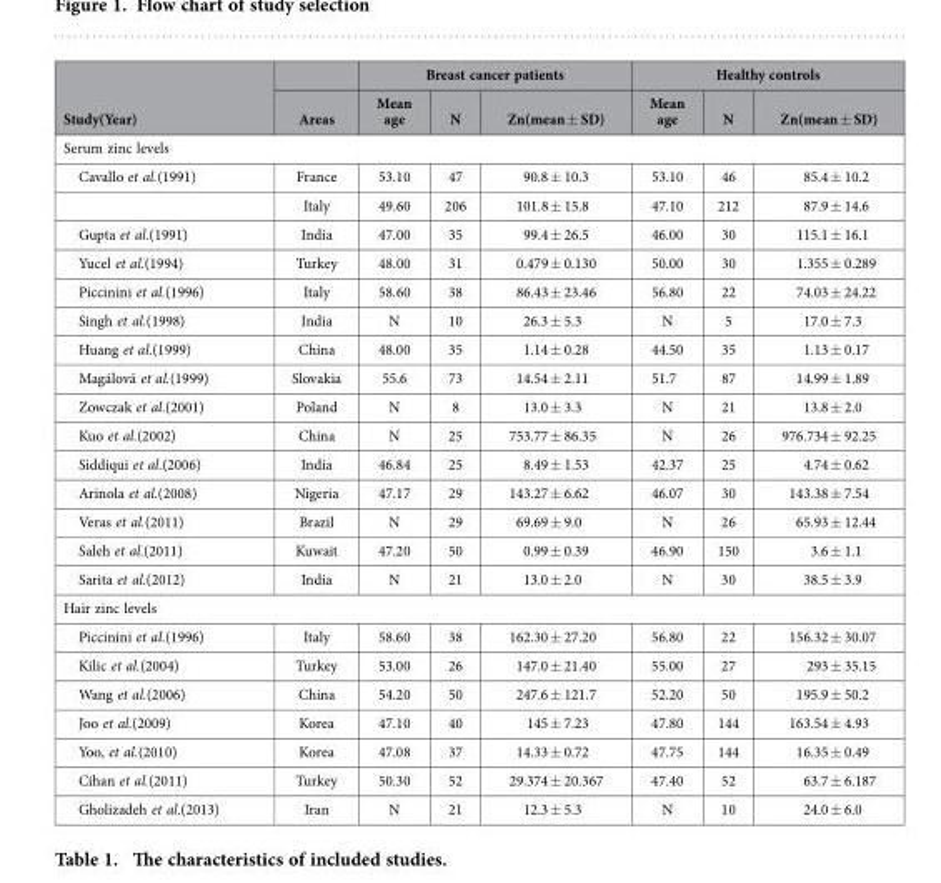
<table><thead><tr><td rowspan="2">Study(Year)</td><td rowspan="2">Areas</td><td colspan="3">Breast cancer patients</td><td colspan="3">Healthy controls</td></tr><tr><td>Mean age</td><td>N</td><td>Zn(mean ± SD)</td><td>Mean age</td><td>N</td><td>Zn(mean ± SD)</td></tr></thead><tbody><tr><td colspan="8">Serum zinc levels</td></tr><tr><td rowspan="2">Cavallo et al.(1991)</td><td>France</td><td>53.10</td><td>47</td><td>90.8 ± 10.3</td><td>53.10</td><td>46</td><td>85.4 ± 10.2</td></tr><tr><td>Italy</td><td>49.60</td><td>206</td><td>101.8 ± 15.8</td><td>47.10</td><td>212</td><td>87.9 ± 14.6</td></tr><tr><td>Gupta et al.(1991)</td><td>India</td><td>47.00</td><td>35</td><td>99.4 ± 26.5</td><td>46.00</td><td>30</td><td>115.1 ± 16.1</td></tr><tr><td>Yucel et al.(1994)</td><td>Turkey</td><td>48.00</td><td>31</td><td>0.479 ± 0.130</td><td>50.00</td><td>30</td><td>1.355 ± 0.289</td></tr><tr><td>Piccinini et al.(1996)</td><td>Italy</td><td>58.60</td><td>38</td><td>86.43 ± 23.46</td><td>56.80</td><td>22</td><td>74.03 ± 24.22</td></tr><tr><td>Singh et al.(1998)</td><td>India</td><td>N</td><td>10</td><td>26.3 ± 5.3</td><td>N</td><td>5</td><td>17.0 ± 7.3</td></tr><tr><td>Huang et al.(1999)</td><td>China</td><td>48.00</td><td>35</td><td>1.14 ± 0.28</td><td>44.50</td><td>35</td><td>1.13 ± 0.17</td></tr><tr><td>Magálová et al.(1999)</td><td>Slovakia</td><td>55.6</td><td>73</td><td>14.54 ± 2.11</td><td>51.7</td><td>87</td><td>14.99 ± 1.89</td></tr><tr><td>Zowczak et al.(2001)</td><td>Poland</td><td>N</td><td>8</td><td>13.0 ± 3.3</td><td>N</td><td>21</td><td>13.8 ± 2.0</td></tr><tr><td>Kuo et al.(2002)</td><td>China</td><td>N</td><td>25</td><td>753.77 ± 86.35</td><td>N</td><td>26</td><td>976.734 ± 92.25</td></tr><tr><td>Siddiqui et al.(2006)</td><td>India</td><td>46.84</td><td>25</td><td>8.49 ± 1.53</td><td>42.37</td><td>25</td><td>4.74 ± 0.62</td></tr><tr><td>Arinola et al.(2008)</td><td>Nigeria</td><td>47.17</td><td>29</td><td>143.27 ± 6.62</td><td>46.07</td><td>30</td><td>143.38 ± 7.54</td></tr><tr><td>Veras et al.(2011)</td><td>Brazil</td><td>N</td><td>29</td><td>69.69 ± 9.0</td><td>N</td><td>26</td><td>65.93 ± 12.44</td></tr><tr><td>Saleh et al.(2011)</td><td>Kuwait</td><td>47.20</td><td>50</td><td>0.99 ± 0.39</td><td>46.90</td><td>150</td><td>3.6 ± 1.1</td></tr><tr><td>Sarita et al.(2012)</td><td>India</td><td>N</td><td>21</td><td>13.0 ± 2.0</td><td>N</td><td>30</td><td>38.5 ± 3.9</td></tr><tr><td colspan="8">Hair zinc levels</td></tr><tr><td>Piccinini et al.(1996)</td><td>Italy</td><td>58.60</td><td>38</td><td>162.30 ± 27.20</td><td>56.80</td><td>22</td><td>156.32 ± 30.07</td></tr><tr><td>Kilic et al.(2004)</td><td>Turkey</td><td>53.00</td><td>26</td><td>147.0 ± 21.40</td><td>55.00</td><td>27</td><td>293 ± 35.15</td></tr><tr><td>Wang et al.(2006)</td><td>China</td><td>54.20</td><td>50</td><td>247.6 ± 121.7</td><td>52.20</td><td>50</td><td>195.9 ± 50.2</td></tr><tr><td>Joo et al.(2009)</td><td>Korea</td><td>47.10</td><td>40</td><td>145 ± 7.23</td><td>47.80</td><td>144</td><td>163.54 ± 4.93</td></tr><tr><td>Yoo, et al.(2010)</td><td>Korea</td><td>47.08</td><td>37</td><td>14.33 ± 0.72</td><td>47.75</td><td>144</td><td>16.35 ± 0.49</td></tr><tr><td>Cihan et al.(2011)</td><td>Turkey</td><td>50.30</td><td>52</td><td>29.374 ± 20.367</td><td>47.40</td><td>52</td><td>63.7 ± 6.187</td></tr><tr><td>Gholizadeh et al.(2013)</td><td>Iran</td><td>N</td><td>21</td><td>12.3 ± 5.3</td><td>N</td><td>10</td><td>24.0 ± 6.0</td></tr></tbody></table>